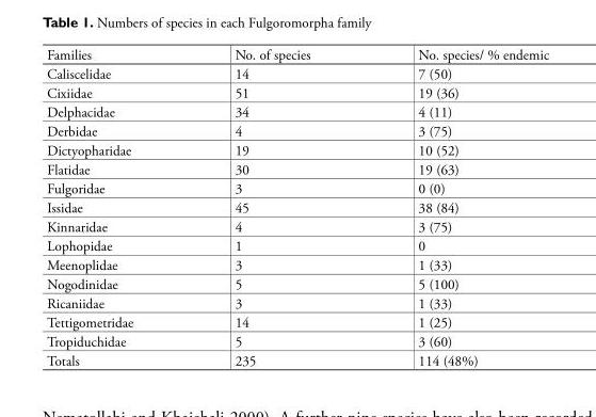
<table><tbody><tr><td>Families</td><td>No. of species</td><td>No. species/ % endemic</td></tr><tr><td>Caliscelidae</td><td>14</td><td>7 (50)</td></tr><tr><td>Cixiidae</td><td>51</td><td>19 (36)</td></tr><tr><td>Delphacidae</td><td>34</td><td>4 (11)</td></tr><tr><td>Derbidae</td><td>4</td><td>3 (75)</td></tr><tr><td>Dictyopharidae</td><td>19</td><td>10 (52)</td></tr><tr><td>Flatidae</td><td>30</td><td>19 (63)</td></tr><tr><td>Fulgoridae</td><td>3</td><td>0 (0)</td></tr><tr><td>Issidae</td><td>45</td><td>38 (84)</td></tr><tr><td>Kinnaridae</td><td>4</td><td>3 (75)</td></tr><tr><td>Lophopidae</td><td>1</td><td>0</td></tr><tr><td>Meenoplidae</td><td>3</td><td>1 (33)</td></tr><tr><td>Nogodinidae</td><td>5</td><td>5 (100)</td></tr><tr><td>Ricaniidae</td><td>3</td><td>1 (33)</td></tr><tr><td>Tettigometridae</td><td>14</td><td>1 (25)</td></tr><tr><td>Tropiduchidae</td><td>5</td><td>3 (60)</td></tr><tr><td>Totals</td><td>235</td><td>114 (48%)</td></tr></tbody></table>